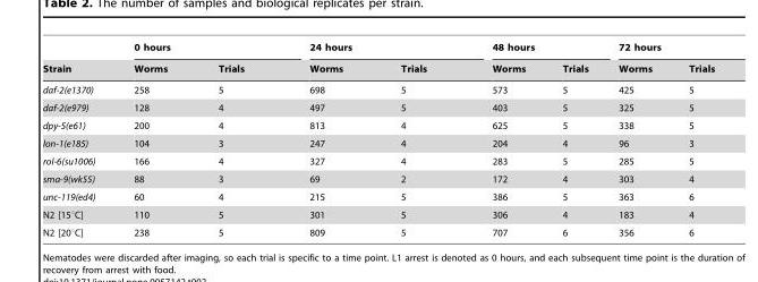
<table><thead><tr><td rowspan="2">Strain</td><td colspan="2">0 hours</td><td colspan="2">24 hours</td><td colspan="2">48 hours</td><td colspan="2">72 hours</td></tr><tr><td>Worms</td><td>Trials</td><td>Worms</td><td>Trials</td><td>Worms</td><td>Trials</td><td>Worms</td><td>Trials</td></tr></thead><tbody><tr><td>daf-2(e1370)</td><td>258</td><td>5</td><td>698</td><td>5</td><td>573</td><td>5</td><td>425</td><td>5</td></tr><tr><td>daf-2(e979)</td><td>128</td><td>4</td><td>497</td><td>5</td><td>403</td><td>5</td><td>325</td><td>5</td></tr><tr><td>dpy-5(e61)</td><td>200</td><td>4</td><td>813</td><td>4</td><td>625</td><td>5</td><td>338</td><td>5</td></tr><tr><td>lon-1(e185)</td><td>104</td><td>3</td><td>247</td><td>4</td><td>204</td><td>4</td><td>96</td><td>3</td></tr><tr><td>rol-6(su1006)</td><td>166</td><td>4</td><td>327</td><td>4</td><td>283</td><td>5</td><td>285</td><td>5</td></tr><tr><td>sma-9(wk55)</td><td>88</td><td>3</td><td>69</td><td>2</td><td>172</td><td>4</td><td>303</td><td>4</td></tr><tr><td>unc-119(ed4)</td><td>60</td><td>4</td><td>215</td><td>5</td><td>386</td><td>5</td><td>363</td><td>6</td></tr><tr><td>N2 [15°C]</td><td>110</td><td>5</td><td>301</td><td>5</td><td>306</td><td>4</td><td>183</td><td>4</td></tr><tr><td>N2 [20°C]</td><td>238</td><td>5</td><td>809</td><td>5</td><td>707</td><td>6</td><td>356</td><td>6</td></tr></tbody></table>